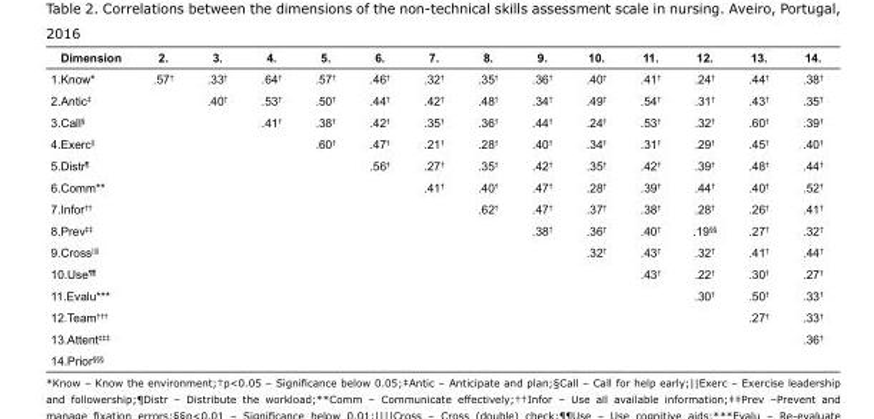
<table><tbody><tr><td>Dimension</td><td>2.</td><td>3.</td><td>4.</td><td>5.</td><td>6.</td><td>7.</td><td>8.</td><td>9.</td><td>10.</td><td>11.</td><td>12.</td><td>13.</td><td>14.</td></tr><tr><td>1.Know*</td><td>.57<sup>†</sup></td><td>.33<sup>†</sup></td><td>.64<sup>†</sup></td><td>.57<sup>†</sup></td><td>.46<sup>†</sup></td><td>.32<sup>†</sup></td><td>.35<sup>†</sup></td><td>.36<sup>†</sup></td><td>.40<sup>†</sup></td><td>.41<sup>†</sup></td><td>.24<sup>†</sup></td><td>.44<sup>†</sup></td><td>.38<sup>†</sup></td></tr><tr><td>2.Antic<sup>‡</sup></td><td></td><td>.40<sup>†</sup></td><td>.53<sup>†</sup></td><td>.50<sup>†</sup></td><td>.44<sup>†</sup></td><td>.42<sup>†</sup></td><td>.48<sup>†</sup></td><td>.34<sup>†</sup></td><td>.49<sup>†</sup></td><td>.54<sup>†</sup></td><td>.31<sup>†</sup></td><td>.43<sup>†</sup></td><td>.35<sup>†</sup></td></tr><tr><td>3.Call<sup>§</sup></td><td></td><td></td><td>.41<sup>†</sup></td><td>.38<sup>†</sup></td><td>.42<sup>†</sup></td><td>.35<sup>†</sup></td><td>.36<sup>†</sup></td><td>.44<sup>†</sup></td><td>.24<sup>†</sup></td><td>.53<sup>†</sup></td><td>.32<sup>†</sup></td><td>.60<sup>†</sup></td><td>.39<sup>†</sup></td></tr><tr><td>4.Exerc<sup>||</sup></td><td></td><td></td><td></td><td>.60<sup>†</sup></td><td>.47<sup>†</sup></td><td>.21<sup>†</sup></td><td>.28<sup>†</sup></td><td>.40<sup>†</sup></td><td>.34<sup>†</sup></td><td>.31<sup>†</sup></td><td>.29<sup>†</sup></td><td>.45<sup>†</sup></td><td>.40<sup>†</sup></td></tr><tr><td>5.Distr<sup>¶</sup></td><td></td><td></td><td></td><td></td><td>.56<sup>†</sup></td><td>.27<sup>†</sup></td><td>.35<sup>†</sup></td><td>.42<sup>†</sup></td><td>.35<sup>†</sup></td><td>.42<sup>†</sup></td><td>.39<sup>†</sup></td><td>.48<sup>†</sup></td><td>.44<sup>†</sup></td></tr><tr><td>6.Comm**</td><td></td><td></td><td></td><td></td><td></td><td>.41<sup>†</sup></td><td>.40<sup>†</sup></td><td>.47<sup>†</sup></td><td>.28<sup>†</sup></td><td>.39<sup>†</sup></td><td>.44<sup>†</sup></td><td>.40<sup>†</sup></td><td>.52<sup>†</sup></td></tr><tr><td>7.Infor<sup>††</sup></td><td></td><td></td><td></td><td></td><td></td><td></td><td>.62<sup>†</sup></td><td>.47<sup>†</sup></td><td>.37<sup>†</sup></td><td>.38<sup>†</sup></td><td>.28<sup>†</sup></td><td>.26<sup>†</sup></td><td>.41<sup>†</sup></td></tr><tr><td>8.Prev<sup>‡‡</sup></td><td></td><td></td><td></td><td></td><td></td><td></td><td></td><td>.38<sup>†</sup></td><td>.36<sup>†</sup></td><td>.40<sup>†</sup></td><td>.19<sup>§§</sup></td><td>.27<sup>†</sup></td><td>.32<sup>†</sup></td></tr><tr><td>9.Cross<sup>||||</sup></td><td></td><td></td><td></td><td></td><td></td><td></td><td></td><td></td><td>.32<sup>†</sup></td><td>.43<sup>†</sup></td><td>.32<sup>†</sup></td><td>.41<sup>†</sup></td><td>.44<sup>†</sup></td></tr><tr><td>10.Use<sup>¶¶</sup></td><td></td><td></td><td></td><td></td><td></td><td></td><td></td><td></td><td></td><td>.43<sup>†</sup></td><td>.22<sup>†</sup></td><td>.30<sup>†</sup></td><td>.27<sup>†</sup></td></tr><tr><td>11.Evalu***</td><td></td><td></td><td></td><td></td><td></td><td></td><td></td><td></td><td></td><td></td><td>.30<sup>†</sup></td><td>.50<sup>†</sup></td><td>.33<sup>†</sup></td></tr><tr><td>12.Team<sup>†††</sup></td><td></td><td></td><td></td><td></td><td></td><td></td><td></td><td></td><td></td><td></td><td></td><td>.27<sup>†</sup></td><td>.33<sup>†</sup></td></tr><tr><td>13.Attent<sup>‡‡‡</sup></td><td></td><td></td><td></td><td></td><td></td><td></td><td></td><td></td><td></td><td></td><td></td><td></td><td>.36<sup>†</sup></td></tr><tr><td>14.Prior<sup>§§§</sup></td><td></td><td></td><td></td><td></td><td></td><td></td><td></td><td></td><td></td><td></td><td></td><td></td><td></td></tr></tbody></table>